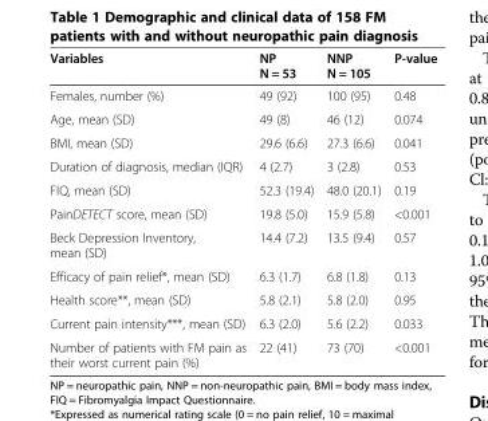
<table><thead><tr><td>Variables</td><td>NP N = 53</td><td>NNP N = 105</td><td>P-value</td></tr></thead><tbody><tr><td>Females, number (%)</td><td>49 (92)</td><td>100 (95)</td><td>0.48</td></tr><tr><td>Age, mean (SD)</td><td>49 (8)</td><td>46 (12)</td><td>0.074</td></tr><tr><td>BMI, mean (SD)</td><td>29.6 (6.6)</td><td>27.3 (6.6)</td><td>0.041</td></tr><tr><td>Duration of diagnosis, median (IQR)</td><td>4 (2.7)</td><td>3 (2.8)</td><td>0.53</td></tr><tr><td>FIQ, mean (SD)</td><td>52.3 (19.4)</td><td>48.0 (20.1)</td><td>0.19</td></tr><tr><td>PainDETECT score, mean (SD)</td><td>19.8 (5.0)</td><td>15.9 (5.8)</td><td>&lt;0.001</td></tr><tr><td>Beck Depression Inventory, mean (SD)</td><td>14.4 (7.2)</td><td>13.5 (9.4)</td><td>0.57</td></tr><tr><td>Efficacy of pain relief*, mean (SD)</td><td>6.3 (1.7)</td><td>6.8 (1.8)</td><td>0.13</td></tr><tr><td>Health score**, mean (SD)</td><td>5.8 (2.1)</td><td>5.8 (2.0)</td><td>0.95</td></tr><tr><td>Current pain intensity***, mean (SD)</td><td>6.3 (2.0)</td><td>5.6 (2.2)</td><td>0.033</td></tr><tr><td>Number of patients with FM pain as their worst current pain (%)</td><td>22 (41)</td><td>73 (70)</td><td>&lt;0.001</td></tr></tbody></table>